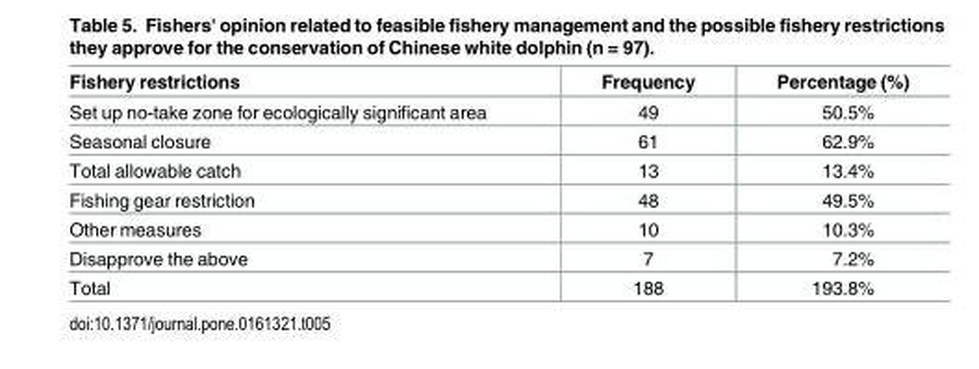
<table><thead><tr><td>Fishery restrictions</td><td>Frequency</td><td>Percentage (%)</td></tr></thead><tbody><tr><td>Set up no-take zone for ecologically significant area</td><td>49</td><td>50.5%</td></tr><tr><td>Seasonal closure</td><td>61</td><td>62.9%</td></tr><tr><td>Total allowable catch</td><td>13</td><td>13.4%</td></tr><tr><td>Fishing gear restriction</td><td>48</td><td>49.5%</td></tr><tr><td>Other measures</td><td>10</td><td>10.3%</td></tr><tr><td>Disapprove the above</td><td>7</td><td>7.2%</td></tr><tr><td>Total</td><td>188</td><td>193.8%</td></tr></tbody></table>